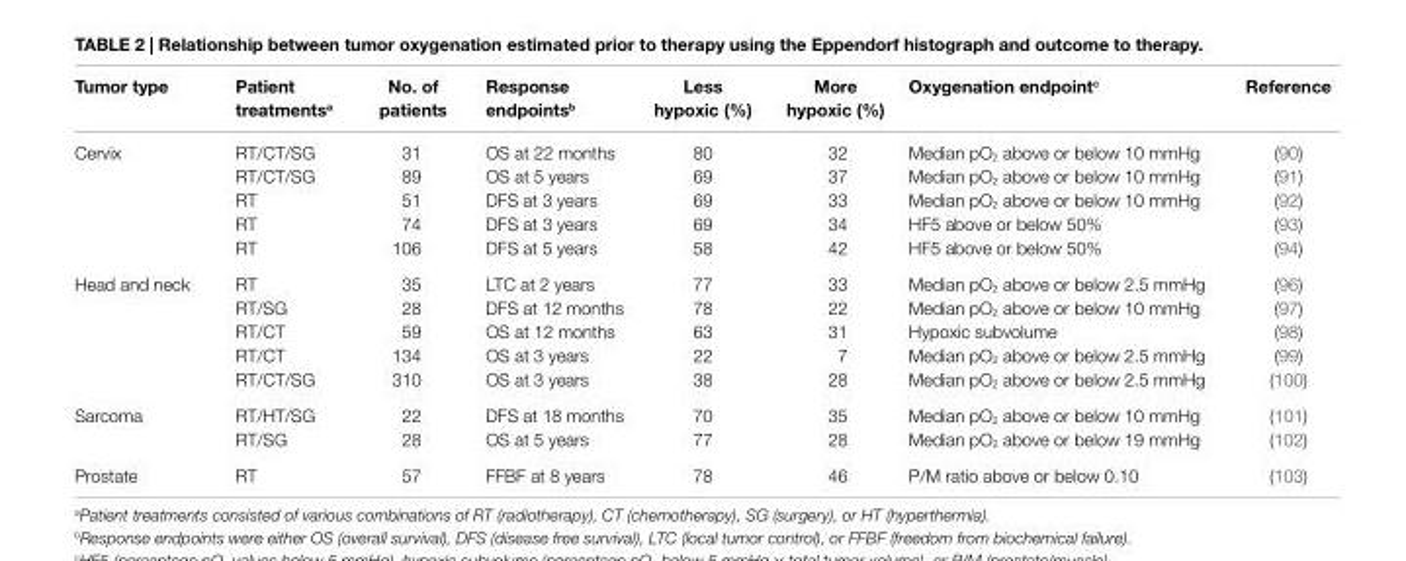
<table><thead><tr><td>Tumor type</td><td>Patient treatments<sup>a</sup></td><td>No. of patients</td><td>Response endpoints<sup>b</sup></td><td>Less hypoxic (%)</td><td>More hypoxic (%)</td><td>Oxygenation endpoint<sup>c</sup></td><td>Reference</td></tr></thead><tbody><tr><td rowspan="5">Cervix</td><td>RT/CT/SG</td><td>31</td><td>OS at 22 months</td><td>80</td><td>32</td><td>Median pO<sub>2</sub> above or below 10 mmHg</td><td>(90)</td></tr><tr><td>RT/CT/SG</td><td>89</td><td>OS at 5 years</td><td>69</td><td>37</td><td>Median pO<sub>2</sub> above or below 10 mmHg</td><td>(91)</td></tr><tr><td>RT</td><td>51</td><td>DFS at 3 years</td><td>69</td><td>33</td><td>Median pO<sub>2</sub> above or below 10 mmHg</td><td>(92)</td></tr><tr><td>RT</td><td>74</td><td>DFS at 3 years</td><td>69</td><td>34</td><td>HF5 above or below 50%</td><td>(93)</td></tr><tr><td>RT</td><td>106</td><td>DFS at 5 years</td><td>58</td><td>42</td><td>HF5 above or below 50%</td><td>(94)</td></tr><tr><td rowspan="5">Head and neck</td><td>RT</td><td>35</td><td>LTC at 2 years</td><td>77</td><td>33</td><td>Median pO<sub>2</sub> above or below 2.5 mmHg</td><td>(96)</td></tr><tr><td>RT/SG</td><td>28</td><td>DFS at 12 months</td><td>78</td><td>22</td><td>Median pO<sub>2</sub> above or below 10 mmHg</td><td>(97)</td></tr><tr><td>RT/CT</td><td>59</td><td>OS at 12 months</td><td>63</td><td>31</td><td>Hypoxic subvolume</td><td>(98)</td></tr><tr><td>RT/CT</td><td>134</td><td>OS at 3 years</td><td>22</td><td>7</td><td>Median pO<sub>2</sub> above or below 2.5 mmHg</td><td>(99)</td></tr><tr><td>RT/CT/SG</td><td>310</td><td>OS at 3 years</td><td>38</td><td>28</td><td>Median pO<sub>2</sub> above or below 2.5 mmHg</td><td>(100)</td></tr><tr><td rowspan="2">Sarcoma</td><td>RT/HT/SG</td><td>22</td><td>DFS at 18 months</td><td>70</td><td>35</td><td>Median pO<sub>2</sub> above or below 10 mmHg</td><td>(101)</td></tr><tr><td>RT/SG</td><td>28</td><td>OS at 5 years</td><td>77</td><td>28</td><td>Median pO<sub>2</sub> above or below 19 mmHg</td><td>(102)</td></tr><tr><td>Prostate</td><td>RT</td><td>57</td><td>FFBF at 8 years</td><td>78</td><td>46</td><td>P/M ratio above or below 0.10</td><td>(103)</td></tr></tbody></table>